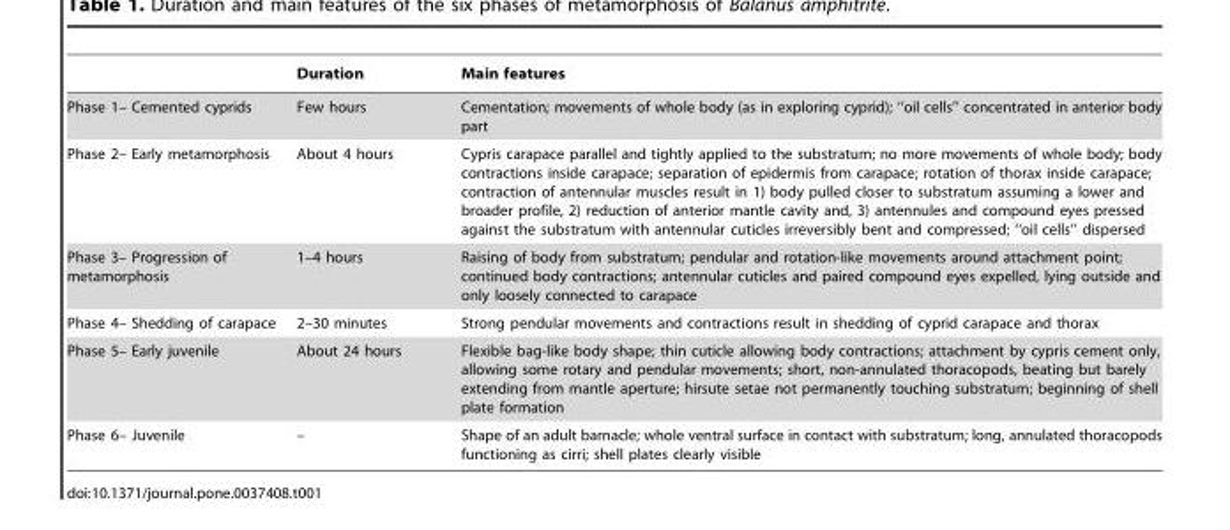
<table><thead><tr><td></td><td>Duration</td><td>Main features</td></tr></thead><tbody><tr><td>Phase 1– Cemented cyprids</td><td>Few hours</td><td>Cementation; movements of whole body (as in exploring cyprid); ‘‘oil cells’’ concentrated in anterior body part</td></tr><tr><td>Phase 2– Early metamorphosis</td><td>About 4 hours</td><td>Cypris carapace parallel and tightly applied to the substratum; no more movements of whole body; body contractions inside carapace; separation of epidermis from carapace; rotation of thorax inside carapace; contraction of antennular muscles result in 1) body pulled closer to substratum assuming a lower and broader profile, 2) reduction of anterior mantle cavity and, 3) antennules and compound eyes pressed against the substratum with antennular cuticles irreversibly bent and compressed; ‘‘oil cells’’ dispersed</td></tr><tr><td>Phase 3– Progression of metamorphosis</td><td>1–4 hours</td><td>Raising of body from substratum; pendular and rotation-like movements around attachment point; continued body contractions; antennular cuticles and paired compound eyes expelled, lying outside and only loosely connected to carapace</td></tr><tr><td>Phase 4– Shedding of carapace</td><td>2–30 minutes</td><td>Strong pendular movements and contractions result in shedding of cyprid carapace and thorax</td></tr><tr><td>Phase 5– Early juvenile</td><td>About 24 hours</td><td>Flexible bag-like body shape; thin cuticle allowing body contractions; attachment by cypris cement only, allowing some rotary and pendular movements; short, non-annulated thoracopods, beating but barely extending from mantle aperture; hirsute setae not permanently touching substratum; beginning of shell plate formation</td></tr><tr><td>Phase 6– Juvenile</td><td>–</td><td>Shape of an adult barnacle; whole ventral surface in contact with substratum; long, annulated thoracopods functioning as cirri; shell plates clearly visible</td></tr></tbody></table>